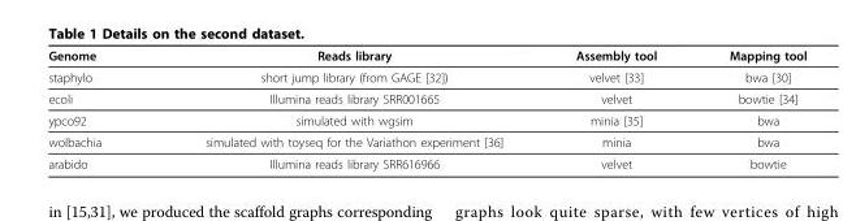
<table><thead><tr><td>Genome</td><td>Reads library</td><td>Assembly tool</td><td>Mapping tool</td></tr></thead><tbody><tr><td>staphylo</td><td>short jump library (from GAGE [32])</td><td>velvet [33]</td><td>bwa [30]</td></tr><tr><td>ecoli</td><td>Illumina reads library SRR001665</td><td>velvet</td><td>bowtie [34]</td></tr><tr><td>ypco92</td><td>simulated with wgsim</td><td>minia [35]</td><td>bwa</td></tr><tr><td>wolbachia</td><td>simulated with toyseq for the Variathon experiment [36]</td><td>minia</td><td>bwa</td></tr><tr><td>arabido</td><td>Illumina reads library SRR616966</td><td>velvet</td><td>bowtie</td></tr></tbody></table>